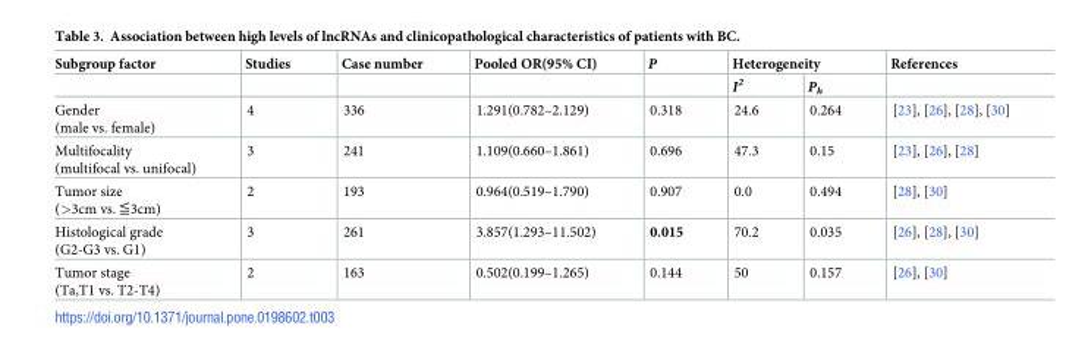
<table><thead><tr><td rowspan="2">Subgroup factor</td><td rowspan="2">Studies</td><td rowspan="2">Case number</td><td rowspan="2">Pooled OR(95% CI)</td><td rowspan="2">P</td><td colspan="2">Heterogeneity</td><td rowspan="2">References</td></tr><tr><td>I<sup>2</sup></td><td>P<sub>h</sub></td></tr></thead><tbody><tr><td>Gender (male vs. female)</td><td>4</td><td>336</td><td>1.291(0.782–2.129)</td><td>0.318</td><td>24.6</td><td>0.264</td><td>[23], [26], [28], [30]</td></tr><tr><td>Multifocality (multifocal vs. unifocal)</td><td>3</td><td>241</td><td>1.109(0.660–1.861)</td><td>0.696</td><td>47.3</td><td>0.15</td><td>[23], [26], [28]</td></tr><tr><td>Tumor size (&gt;3cm vs. ≦3cm)</td><td>2</td><td>193</td><td>0.964(0.519–1.790)</td><td>0.907</td><td>0.0</td><td>0.494</td><td>[28], [30]</td></tr><tr><td>Histological grade (G2-G3 vs. G1)</td><td>3</td><td>261</td><td>3.857(1.293–11.502)</td><td>0.015</td><td>70.2</td><td>0.035</td><td>[26], [28], [30]</td></tr><tr><td>Tumor stage (Ta,T1 vs. T2-T4)</td><td>2</td><td>163</td><td>0.502(0.199–1.265)</td><td>0.144</td><td>50</td><td>0.157</td><td>[26], [30]</td></tr></tbody></table>